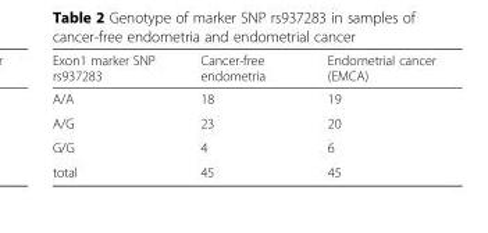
<table><thead><tr><td>Exon1 marker SNP rs937283</td><td>Cancer-free endometria</td><td>Endometrial cancer (EMCA)</td></tr></thead><tbody><tr><td>A/A</td><td>18</td><td>19</td></tr><tr><td>A/G</td><td>23</td><td>20</td></tr><tr><td>G/G</td><td>4</td><td>6</td></tr><tr><td>total</td><td>45</td><td>45</td></tr></tbody></table>